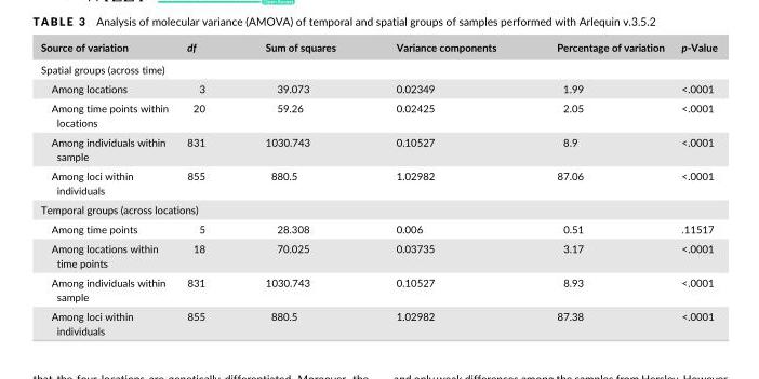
<table><thead><tr><td>Source of variation</td><td>df</td><td>Sum of squares</td><td>Variance components</td><td>Percentage of variation</td><td>p- Value</td></tr></thead><tbody><tr><td colspan="6">Spatial groups (across time)</td></tr><tr><td>Among locations</td><td>3</td><td>39.073</td><td>0.02349</td><td>1.99</td><td>&lt;.0001</td></tr><tr><td>Among time points within locations</td><td>20</td><td>59.26</td><td>0.02425</td><td>2.05</td><td>&lt;.0001</td></tr><tr><td>Among individuals within sample</td><td>831</td><td>1030.743</td><td>0.10527</td><td>8.9</td><td>&lt;.0001</td></tr><tr><td>Among loci within individuals</td><td>855</td><td>880.5</td><td>1.02982</td><td>87.06</td><td>&lt;.0001</td></tr><tr><td colspan="6">Temporal groups (across locations)</td></tr><tr><td>Among time points</td><td>5</td><td>28.308</td><td>0.006</td><td>0.51</td><td>.11517</td></tr><tr><td>Among locations within time points</td><td>18</td><td>70.025</td><td>0.03735</td><td>3.17</td><td>&lt;.0001</td></tr><tr><td>Among individuals within sample</td><td>831</td><td>1030.743</td><td>0.10527</td><td>8.93</td><td>&lt;.0001</td></tr><tr><td>Among loci within individuals</td><td>855</td><td>880.5</td><td>1.02982</td><td>87.38</td><td>&lt;.0001</td></tr></tbody></table>